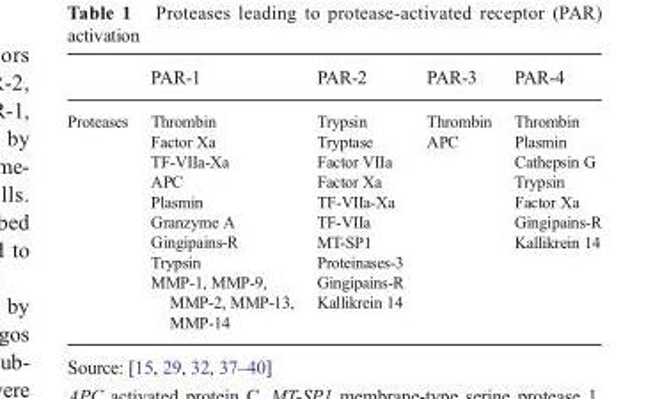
<table><thead><tr><td></td><td>PAR-1</td><td>PAR-2</td><td>PAR-3</td><td>PAR-4</td></tr></thead><tbody><tr><td>Proteases</td><td>Thrombin Factor Xa TF-VIIa-Xa APC Plasmin Granzyme A Gingipains-R Trypsin MMP-1, MMP-9, MMP-2, MMP-13, MMP-14</td><td>Trypsin Tryptase Factor VIIa Factor Xa TF-VIIa-Xa TF-VIIa MT-SP1 Proteinases-3 Gingipains-R Kallikrein 14</td><td>Thrombin APC</td><td>Thrombin Plasmin Cathepsin G Trypsin Factor Xa Gingipains-R Kallikrein 14</td></tr></tbody></table>